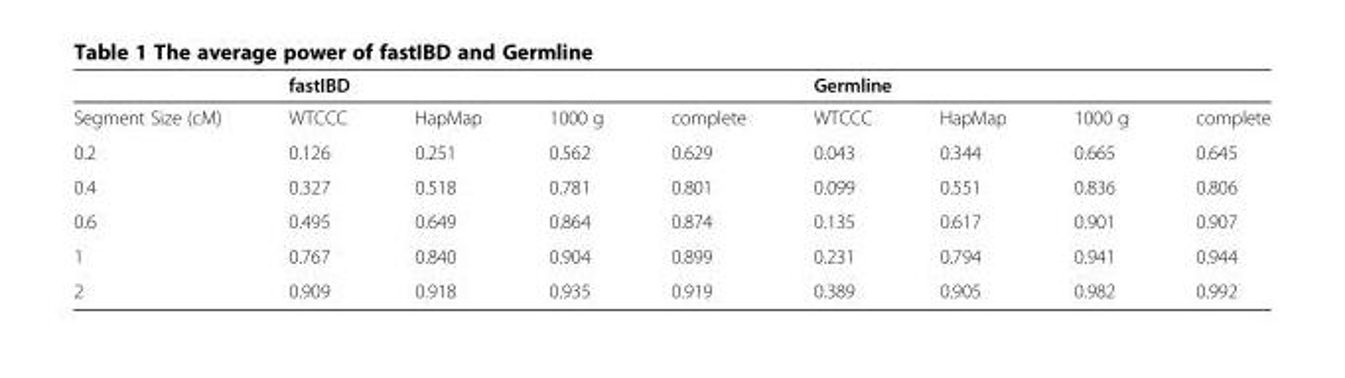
<table><thead><tr><td rowspan="2">Segment Size (cM)</td><td colspan="4">fastIBD</td><td colspan="4">Germline</td></tr><tr><td>WTCCC</td><td>HapMap</td><td>1000 g</td><td>complete</td><td>WTCCC</td><td>HapMap</td><td>1000 g</td><td>complete</td></tr></thead><tbody><tr><td>0.2</td><td>0.126</td><td>0.251</td><td>0.562</td><td>0.629</td><td>0.043</td><td>0.344</td><td>0.665</td><td>0.645</td></tr><tr><td>0.4</td><td>0.327</td><td>0.518</td><td>0.781</td><td>0.801</td><td>0.099</td><td>0.551</td><td>0.836</td><td>0.806</td></tr><tr><td>0.6</td><td>0.495</td><td>0.649</td><td>0.864</td><td>0.874</td><td>0.135</td><td>0.617</td><td>0.901</td><td>0.907</td></tr><tr><td>1</td><td>0.767</td><td>0.840</td><td>0.904</td><td>0.899</td><td>0.231</td><td>0.794</td><td>0.941</td><td>0.944</td></tr><tr><td>2</td><td>0.909</td><td>0.918</td><td>0.935</td><td>0.919</td><td>0.389</td><td>0.905</td><td>0.982</td><td>0.992</td></tr></tbody></table>